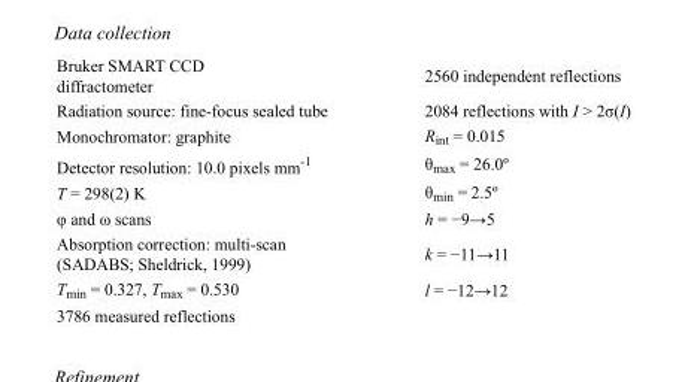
<table><tbody><tr><td>Bruker SMART CCD diffractometer</td><td>2560 independent reflections</td></tr><tr><td>Radiation source: fine-focus sealed tube</td><td>2084 reflections with I &gt; 2σ(I)</td></tr><tr><td>Monochromator: graphite</td><td>R<sub>int</sub> = 0.015</td></tr><tr><td>Detector resolution: 10.0 pixels mm<sup>-1</sup></td><td>θ<sub>max</sub> = 26.0º</td></tr><tr><td>T = 298(2) K</td><td>θ<sub>min</sub> = 2.5º</td></tr><tr><td>φ and ω scans</td><td>h = −9→5</td></tr><tr><td>Absorption correction: multi-scan (SADABS; Sheldrick, 1999)</td><td>k = −11→11</td></tr><tr><td>T<sub>min</sub> = 0.327, T<sub>max</sub> = 0.530</td><td>l = −12→12</td></tr><tr><td>3786 measured reflections</td><td></td></tr></tbody></table>